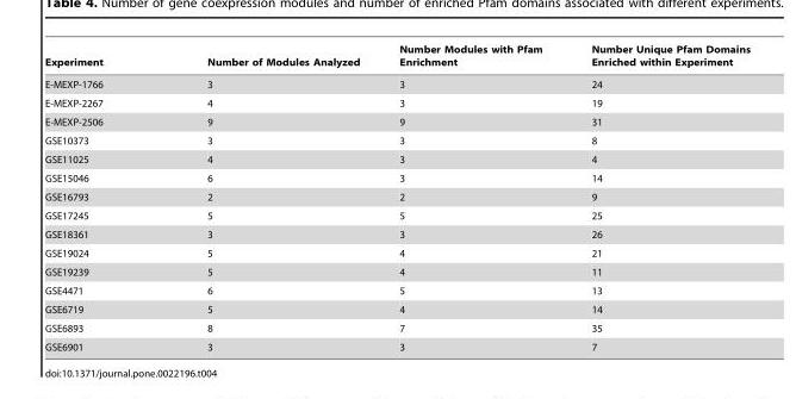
<table><thead><tr><td>Experiment</td><td>Number of Modules Analyzed</td><td>Number Modules with Pfam Enrichment</td><td>Number Unique Pfam Domains Enriched within Experiment</td></tr></thead><tbody><tr><td>E-MEXP-1766</td><td>3</td><td>3</td><td>24</td></tr><tr><td>E-MEXP-2267</td><td>4</td><td>3</td><td>19</td></tr><tr><td>E-MEXP-2506</td><td>9</td><td>9</td><td>31</td></tr><tr><td>GSE10373</td><td>3</td><td>3</td><td>8</td></tr><tr><td>GSE11025</td><td>4</td><td>3</td><td>4</td></tr><tr><td>GSE15046</td><td>6</td><td>3</td><td>14</td></tr><tr><td>GSE16793</td><td>2</td><td>2</td><td>9</td></tr><tr><td>GSE17245</td><td>5</td><td>5</td><td>25</td></tr><tr><td>GSE18361</td><td>3</td><td>3</td><td>26</td></tr><tr><td>GSE19024</td><td>5</td><td>4</td><td>21</td></tr><tr><td>GSE19239</td><td>5</td><td>4</td><td>11</td></tr><tr><td>GSE4471</td><td>6</td><td>5</td><td>13</td></tr><tr><td>GSE6719</td><td>5</td><td>4</td><td>14</td></tr><tr><td>GSE6893</td><td>8</td><td>7</td><td>35</td></tr><tr><td>GSE6901</td><td>3</td><td>3</td><td>7</td></tr></tbody></table>